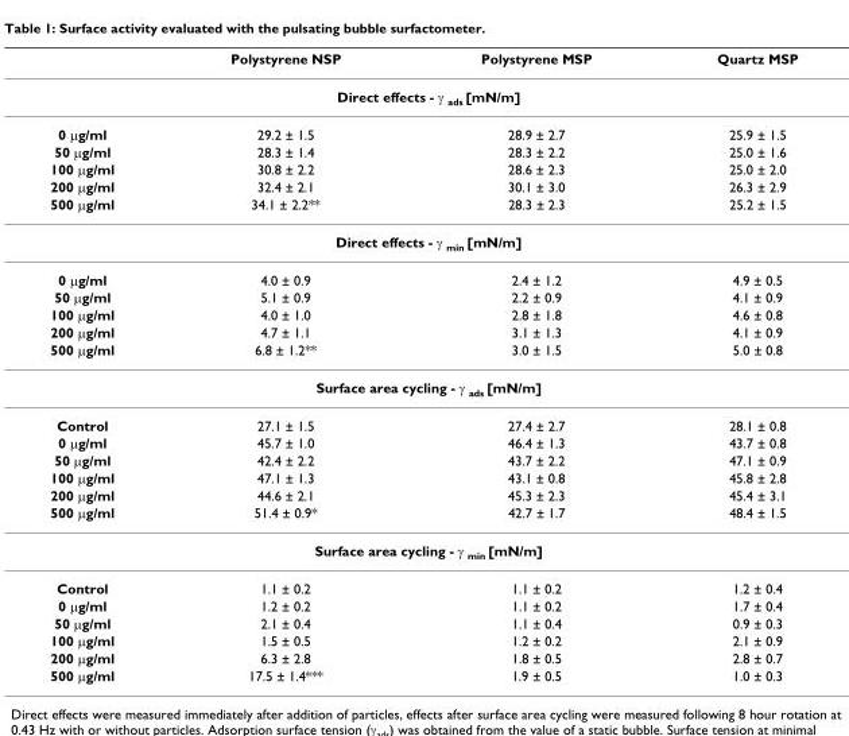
<table><thead><tr><td></td><td>Polystyrene NSP</td><td>Polystyrene MSP</td><td>Quartz MSP</td></tr></thead><tbody><tr><td colspan="4">Direct effects - γ <sub>ads</sub> [mN/m]</td></tr><tr><td>0 μg/ml</td><td>29.2 ± 1.5</td><td>28.9 ± 2.7</td><td>25.9 ± 1.5</td></tr><tr><td>50 μg/ml</td><td>28.3 ± 1.4</td><td>28.3 ± 2.2</td><td>25.0 ± 1.6</td></tr><tr><td>100 μg/ml</td><td>30.8 ± 2.2</td><td>28.6 ± 2.3</td><td>25.0 ± 2.0</td></tr><tr><td>200 μg/ml</td><td>32.4 ± 2.1</td><td>30.1 ± 3.0</td><td>26.3 ± 2.9</td></tr><tr><td>500 μg/ml</td><td>34.1 ± 2.2**</td><td>28.3 ± 2.3</td><td>25.2 ± 1.5</td></tr><tr><td colspan="4">Direct effects - γ <sub>min</sub> [mN/m]</td></tr><tr><td>0 μg/ml</td><td>4.0 ± 0.9</td><td>2.4 ± 1.2</td><td>4.9 ± 0.5</td></tr><tr><td>50 μg/ml</td><td>5.1 ± 0.9</td><td>2.2 ± 0.9</td><td>4.1 ± 0.9</td></tr><tr><td>100 μg/ml</td><td>4.0 ± 1.0</td><td>2.8 ± 1.8</td><td>4.6 ± 0.8</td></tr><tr><td>200 μg/ml</td><td>4.7 ± 1.1</td><td>3.1 ± 1.3</td><td>4.1 ± 0.9</td></tr><tr><td>500 μg/ml</td><td>6.8 ± 1.2**</td><td>3.0 ± 1.5</td><td>5.0 ± 0.8</td></tr><tr><td colspan="4">Surface area cycling - γ <sub>ads</sub> [mN/m]</td></tr><tr><td>Control</td><td>27.1 ± 1.5</td><td>27.4 ± 2.7</td><td>28.1 ± 0.8</td></tr><tr><td>0 μg/ml</td><td>45.7 ± 1.0</td><td>46.4 ± 1.3</td><td>43.7 ± 0.8</td></tr><tr><td>50 μg/ml</td><td>42.4 ± 2.2</td><td>43.7 ± 2.2</td><td>47.1 ± 0.9</td></tr><tr><td>100 μg/ml</td><td>47.1 ± 1.3</td><td>43.1 ± 0.8</td><td>45.8 ± 2.8</td></tr><tr><td>200 μg/ml</td><td>44.6 ± 2.1</td><td>45.3 ± 2.3</td><td>45.4 ± 3.1</td></tr><tr><td>500 μg/ml</td><td>51.4 ± 0.9*</td><td>42.7 ± 1.7</td><td>48.4 ± 1.5</td></tr><tr><td colspan="4">Surface area cycling - γ <sub>min</sub> [mN/m]</td></tr><tr><td>Control</td><td>1.1 ± 0.2</td><td>1.1 ± 0.2</td><td>1.2 ± 0.4</td></tr><tr><td>0 μg/ml</td><td>1.2 ± 0.2</td><td>1.1 ± 0.2</td><td>1.7 ± 0.4</td></tr><tr><td>50 μg/ml</td><td>2.1 ± 0.4</td><td>1.1 ± 0.4</td><td>0.9 ± 0.3</td></tr><tr><td>100 μg/ml</td><td>1.5 ± 0.5</td><td>1.2 ± 0.2</td><td>2.1 ± 0.9</td></tr><tr><td>200 μg/ml</td><td>6.3 ± 2.8</td><td>1.8 ± 0.5</td><td>2.8 ± 0.7</td></tr><tr><td>500 μg/ml</td><td>17.5 ± 1.4***</td><td>1.9 ± 0.5</td><td>1.0 ± 0.3</td></tr></tbody></table>